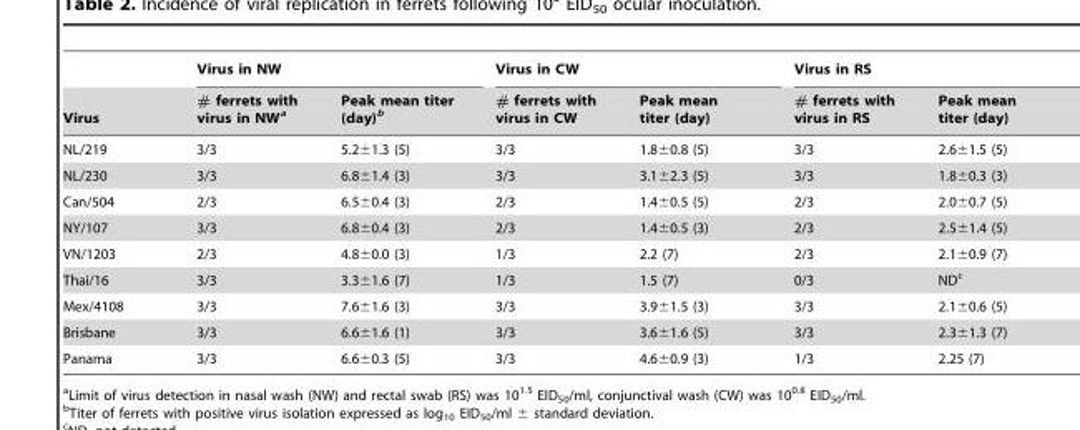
<table><thead><tr><td rowspan="2">Virus</td><td colspan="2">Virus in NW</td><td colspan="2">Virus in CW</td><td colspan="2">Virus in RS</td></tr><tr><td># ferrets with virus in NW<sup>a</sup></td><td>Peak mean titer (day)<sup>b</sup></td><td># ferrets with virus in CW</td><td>Peak mean titer (day)</td><td># ferrets with virus in RS</td><td>Peak mean titer (day)</td></tr></thead><tbody><tr><td>NL/219</td><td>3/3</td><td>5.2±1.3 (5)</td><td>3/3</td><td>1.8±0.8 (5)</td><td>3/3</td><td>2.6±1.5 (5)</td></tr><tr><td>NL/230</td><td>3/3</td><td>6.8±1.4 (3)</td><td>3/3</td><td>3.1±2.3 (5)</td><td>3/3</td><td>1.8±0.3 (3)</td></tr><tr><td>Can/504</td><td>2/3</td><td>6.5±0.4 (3)</td><td>2/3</td><td>1.4±0.5 (5)</td><td>2/3</td><td>2.0±0.7 (5)</td></tr><tr><td>NY/107</td><td>3/3</td><td>6.8±0.4 (3)</td><td>2/3</td><td>1.4±0.5 (3)</td><td>2/3</td><td>2.5±1.4 (5)</td></tr><tr><td>VN/1203</td><td>2/3</td><td>4.8±0.0 (3)</td><td>1/3</td><td>2.2 (7)</td><td>2/3</td><td>2.1±0.9 (7)</td></tr><tr><td>Thai/16</td><td>3/3</td><td>3.3±1.6 (7)</td><td>1/3</td><td>1.5 (7)</td><td>0/3</td><td>ND<sup>c</sup></td></tr><tr><td>Mex/4108</td><td>3/3</td><td>7.6±1.6 (3)</td><td>3/3</td><td>3.9±1.5 (3)</td><td>3/3</td><td>2.1±0.6 (5)</td></tr><tr><td>Brisbane</td><td>3/3</td><td>6.6±1.6 (1)</td><td>3/3</td><td>3.6±1.6 (5)</td><td>3/3</td><td>2.3±1.3 (7)</td></tr><tr><td>Panama</td><td>3/3</td><td>6.6±0.3 (5)</td><td>3/3</td><td>4.6±0.9 (3)</td><td>1/3</td><td>2.25 (7)</td></tr></tbody></table>